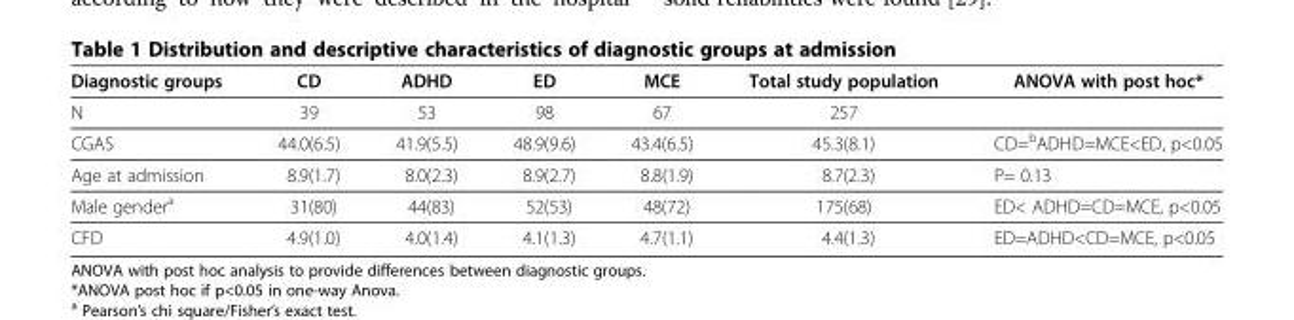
<table><thead><tr><td>Diagnostic groups</td><td>CD</td><td>ADHD</td><td>ED</td><td>MCE</td><td>Total study population</td><td>ANOVA with post hoc*</td></tr></thead><tbody><tr><td>N</td><td>39</td><td>53</td><td>98</td><td>67</td><td>257</td><td></td></tr><tr><td>CGAS</td><td>44.0(6.5)</td><td>41.9(5.5)</td><td>48.9(9.6)</td><td>43.4(6.5)</td><td>45.3(8.1)</td><td>CD=<sup>b</sup>ADHD=MCE&lt;ED, p&lt;0.05</td></tr><tr><td>Age at admission</td><td>8.9(1.7)</td><td>8.0(2.3)</td><td>8.9(2.7)</td><td>8.8(1.9)</td><td>8.7(2.3)</td><td>P= 0.13</td></tr><tr><td>Male gender<sup>a</sup></td><td>31(80)</td><td>44(83)</td><td>52(53)</td><td>48(72)</td><td>175(68)</td><td>ED&lt; ADHD=CD=MCE, p&lt;0.05</td></tr><tr><td>CFD</td><td>4.9(1.0)</td><td>4.0(1.4)</td><td>4.1(1.3)</td><td>4.7(1.1)</td><td>4.4(1.3)</td><td>ED=ADHD&lt;CD=MCE, p&lt;0.05</td></tr></tbody></table>